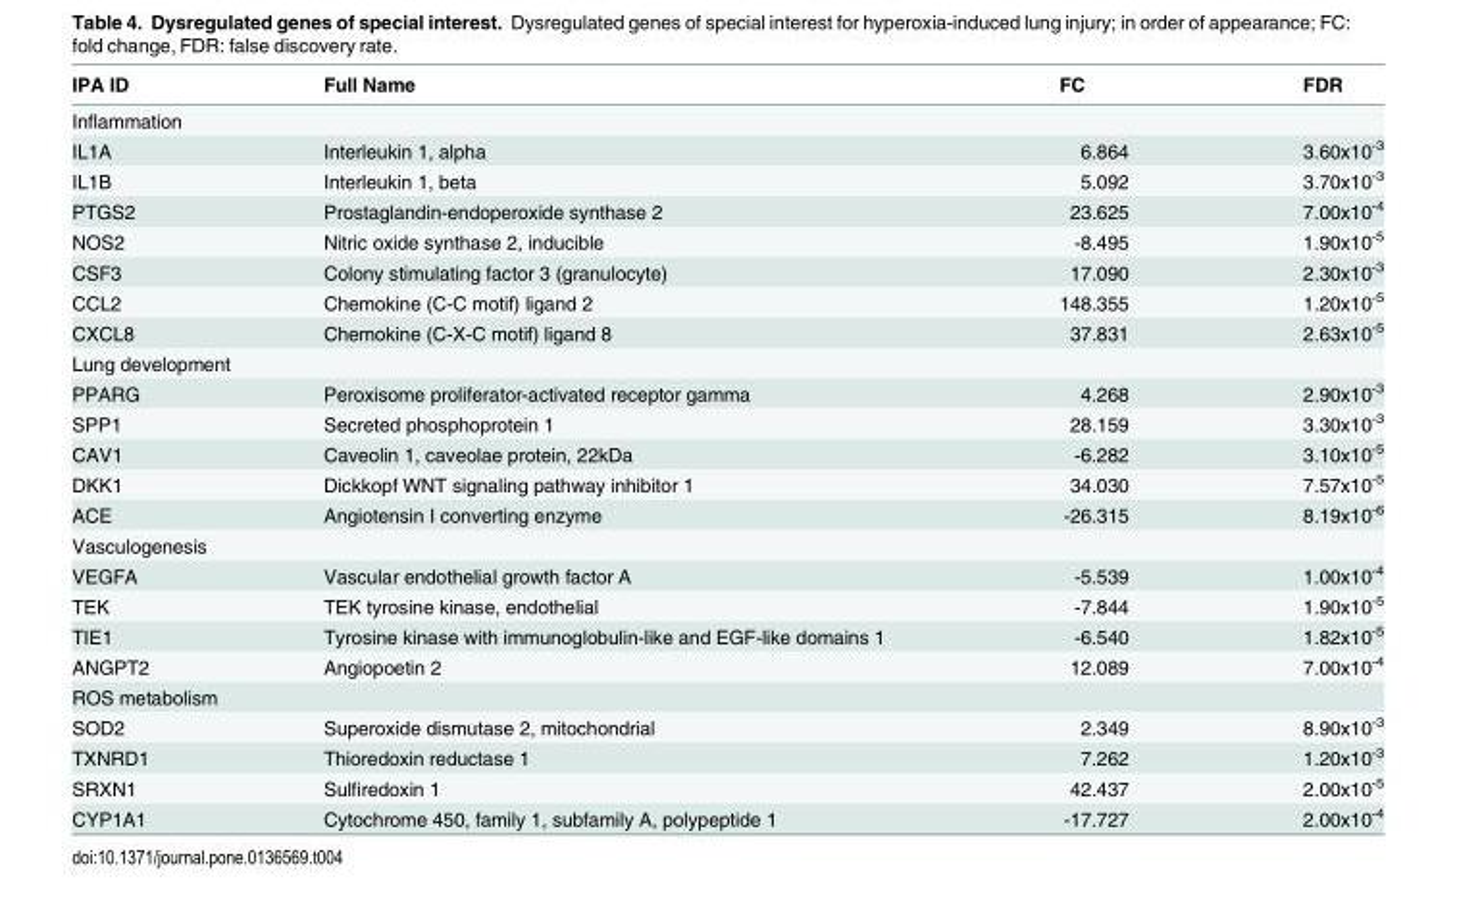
<table><thead><tr><td>IPA ID</td><td>Full Name</td><td>FC</td><td>FDR</td></tr></thead><tbody><tr><td colspan="4">Inflammation</td></tr><tr><td>IL1A</td><td>Interleukin 1, alpha</td><td>6.864</td><td>3.60x10<sup>-3</sup></td></tr><tr><td>IL1B</td><td>Interleukin 1, beta</td><td>5.092</td><td>3.70x10<sup>-3</sup></td></tr><tr><td>PTGS2</td><td>Prostaglandin-endoperoxide synthase 2</td><td>23.625</td><td>7.00x10<sup>-4</sup></td></tr><tr><td>NOS2</td><td>Nitric oxide synthase 2, inducible</td><td>-8.495</td><td>1.90x10<sup>-5</sup></td></tr><tr><td>CSF3</td><td>Colony stimulating factor 3 (granulocyte)</td><td>17.090</td><td>2.30x10<sup>-3</sup></td></tr><tr><td>CCL2</td><td>Chemokine (C-C motif) ligand 2</td><td>148.355</td><td>1.20x10<sup>-5</sup></td></tr><tr><td>CXCL8</td><td>Chemokine (C-X-C motif) ligand 8</td><td>37.831</td><td>2.63x10<sup>-5</sup></td></tr><tr><td colspan="4">Lung development</td></tr><tr><td>PPARG</td><td>Peroxisome proliferator-activated receptor gamma</td><td>4.268</td><td>2.90x10<sup>-3</sup></td></tr><tr><td>SPP1</td><td>Secreted phosphoprotein 1</td><td>28.159</td><td>3.30x10<sup>-3</sup></td></tr><tr><td>CAV1</td><td>Caveolin 1, caveolae protein, 22kDa</td><td>-6.282</td><td>3.10x10<sup>-5</sup></td></tr><tr><td>DKK1</td><td>Dickkopf WNT signaling pathway inhibitor 1</td><td>34.030</td><td>7.57x10<sup>-5</sup></td></tr><tr><td>ACE</td><td>Angiotensin I converting enzyme</td><td>-26.315</td><td>8.19x10<sup>-6</sup></td></tr><tr><td colspan="4">Vasculogenesis</td></tr><tr><td>VEGFA</td><td>Vascular endothelial growth factor A</td><td>-5.539</td><td>1.00x10<sup>-4</sup></td></tr><tr><td>TEK</td><td>TEK tyrosine kinase, endothelial</td><td>-7.844</td><td>1.90x10<sup>-5</sup></td></tr><tr><td>TIE1</td><td>Tyrosine kinase with immunoglobulin-like and EGF-like domains 1</td><td>-6.540</td><td>1.82x10<sup>-5</sup></td></tr><tr><td>ANGPT2</td><td>Angiopoetin 2</td><td>12.089</td><td>7.00x10<sup>-4</sup></td></tr><tr><td colspan="4">ROS metabolism</td></tr><tr><td>SOD2</td><td>Superoxide dismutase 2, mitochondrial</td><td>2.349</td><td>8.90x10<sup>-3</sup></td></tr><tr><td>TXNRD1</td><td>Thioredoxin reductase 1</td><td>7.262</td><td>1.20x10<sup>-3</sup></td></tr><tr><td>SRXN1</td><td>Sulfiredoxin 1</td><td>42.437</td><td>2.00x10<sup>-5</sup></td></tr><tr><td>CYP1A1</td><td>Cytochrome 450, family 1, subfamily A, polypeptide 1</td><td>-17.727</td><td>2.00x10<sup>-4</sup></td></tr></tbody></table>